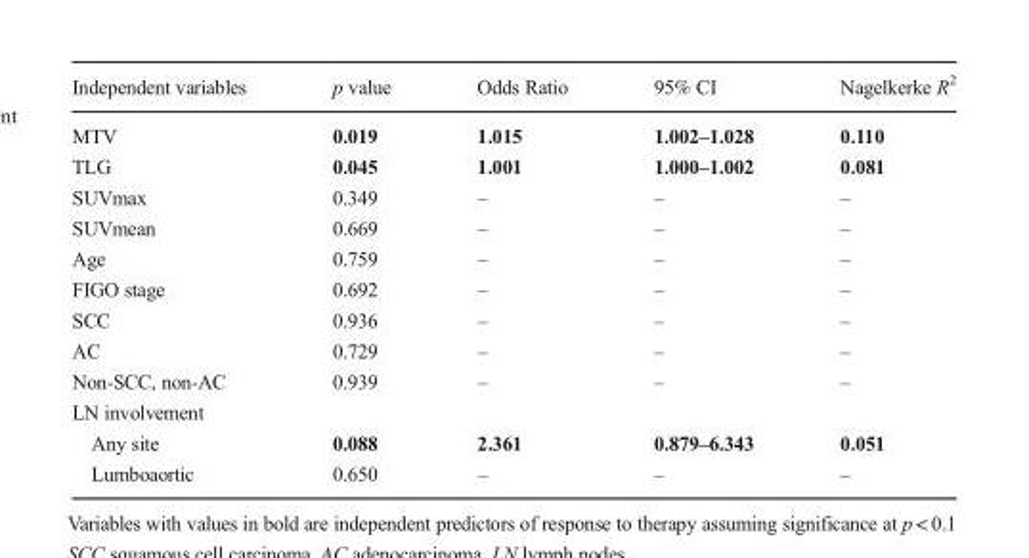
<table><thead><tr><td>Independent variables</td><td>p value</td><td>Odds Ratio</td><td>95% CI</td><td>Nagelkerke R<sup>2</sup></td></tr></thead><tbody><tr><td>MTV</td><td>0.019</td><td>1.015</td><td>1.002–1.028</td><td>0.110</td></tr><tr><td>TLG</td><td>0.045</td><td>1.001</td><td>1.000–1.002</td><td>0.081</td></tr><tr><td>SUVmax</td><td>0.349</td><td>–</td><td>–</td><td>–</td></tr><tr><td>SUVmean</td><td>0.669</td><td>–</td><td>–</td><td>–</td></tr><tr><td>Age</td><td>0.759</td><td>–</td><td>–</td><td>–</td></tr><tr><td>FIGO stage</td><td>0.692</td><td>–</td><td>–</td><td>–</td></tr><tr><td>SCC</td><td>0.936</td><td>–</td><td>–</td><td>–</td></tr><tr><td>AC</td><td>0.729</td><td>–</td><td>–</td><td>–</td></tr><tr><td>Non-SCC, non-AC</td><td>0.939</td><td>–</td><td>–</td><td>–</td></tr><tr><td colspan="5">LN involvement</td></tr><tr><td>Any site</td><td>0.088</td><td>2.361</td><td>0.879–6.343</td><td>0.051</td></tr><tr><td>Lumboaortic</td><td>0.650</td><td>–</td><td>–</td><td>–</td></tr></tbody></table>